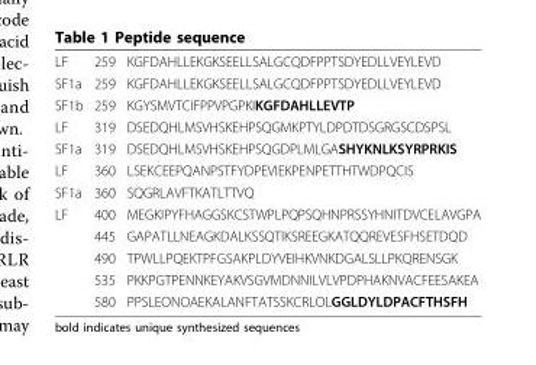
<table><tbody><tr><td>LF</td><td>259</td><td>KGFDAHLLEKGKSEELLSALGCQDFPPTSDYEDLLVEYLEVD</td></tr><tr><td>SF1a</td><td>259</td><td>KGFDAHLLEKGKSEELLSALGCQDFPPTSDYEDLLVEYLEVD</td></tr><tr><td>SF1b</td><td>259</td><td>KGYSMVTCIFPPVPGPKIKGFDAHLLEVTP</td></tr><tr><td>LF</td><td>319</td><td>DSEDQHLMSVHSKEHPSQGMKPTYLDPDTDSGRGSCDSPSL</td></tr><tr><td>SF1a</td><td>319</td><td>DSEDQHLMSVHSKEHPSQGDPLMLGASHYKNLKSYRPRKIS</td></tr><tr><td>LF</td><td>360</td><td>LSEKCEEPQANPSTFYDPEVIEKPENPETTHTWDPQCIS</td></tr><tr><td>SF1a</td><td>360</td><td>SQGRLAVFTKATLTTVQ</td></tr><tr><td rowspan="5">LF</td><td>400</td><td>MEGKIPYFHAGGSKCSTWPLPQPSQHNPRSSYHNITDVCELAVGPA</td></tr><tr><td>445</td><td>GAPATLLNEAGKDALKSSQTIKSREEGKATQQREVESFHSETDQD</td></tr><tr><td>490</td><td>TPWLLPQEKTPFGSAKPLDYVEIHKVNKDGALSLLPKQRENSGK</td></tr><tr><td>535</td><td>PKKPGTPENNKEYAKVSGVMDNNILVLVPDPHAKNVACFEESAKEA</td></tr><tr><td>580</td><td>PPSLEONOAEKALANFTATSSKCRLOLGGLDYLDPACFTHSFH</td></tr></tbody></table>